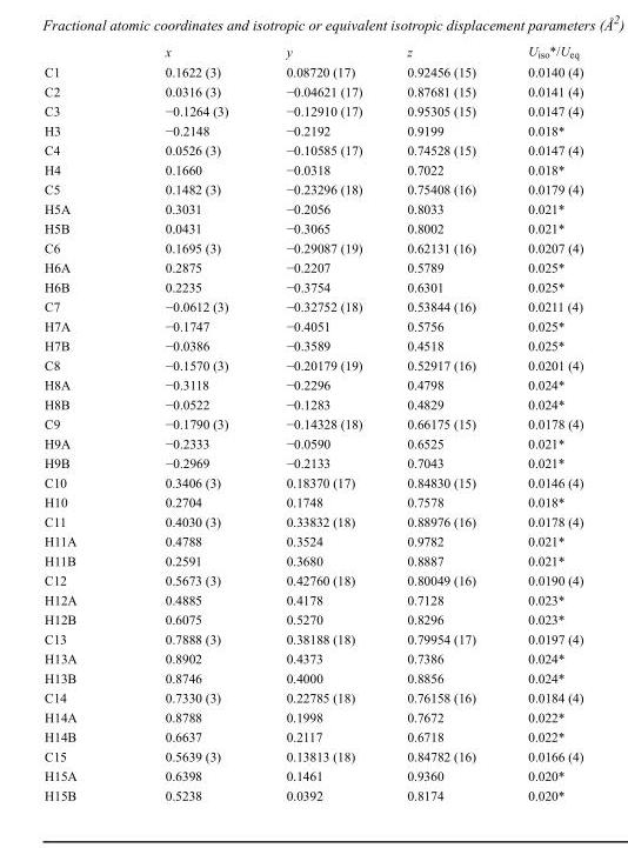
<table><thead><tr><td></td><td>x</td><td>y</td><td>z</td><td>U<sub>iso</sub>*/U<sub>eq</sub></td></tr></thead><tbody><tr><td>C1</td><td>0.1622 (3)</td><td>0.08720 (17)</td><td>0.92456 (15)</td><td>0.0140 (4)</td></tr><tr><td>C2</td><td>0.0316 (3)</td><td>−0.04621 (17)</td><td>0.87681 (15)</td><td>0.0141 (4)</td></tr><tr><td>C3</td><td>−0.1264 (3)</td><td>−0.12910 (17)</td><td>0.95305 (15)</td><td>0.0147 (4)</td></tr><tr><td>H3</td><td>−0.2148</td><td>−0.2192</td><td>0.9199</td><td>0.018*</td></tr><tr><td>C4</td><td>0.0526 (3)</td><td>−0.10585 (17)</td><td>0.74528 (15)</td><td>0.0147 (4)</td></tr><tr><td>H4</td><td>0.1660</td><td>−0.0318</td><td>0.7022</td><td>0.018*</td></tr><tr><td>C5</td><td>0.1482 (3)</td><td>−0.23296 (18)</td><td>0.75408 (16)</td><td>0.0179 (4)</td></tr><tr><td>H5A</td><td>0.3031</td><td>−0.2056</td><td>0.8033</td><td>0.021*</td></tr><tr><td>H5B</td><td>0.0431</td><td>−0.3065</td><td>0.8002</td><td>0.021*</td></tr><tr><td>C6</td><td>0.1695 (3)</td><td>−0.29087 (19)</td><td>0.62131 (16)</td><td>0.0207 (4)</td></tr><tr><td>H6A</td><td>0.2875</td><td>−0.2207</td><td>0.5789</td><td>0.025*</td></tr><tr><td>H6B</td><td>0.2235</td><td>−0.3754</td><td>0.6301</td><td>0.025*</td></tr><tr><td>C7</td><td>−0.0612 (3)</td><td>−0.32752 (18)</td><td>0.53844 (16)</td><td>0.0211 (4)</td></tr><tr><td>H7A</td><td>−0.1747</td><td>−0.4051</td><td>0.5756</td><td>0.025*</td></tr><tr><td>H7B</td><td>−0.0386</td><td>−0.3589</td><td>0.4518</td><td>0.025*</td></tr><tr><td>C8</td><td>−0.1570 (3)</td><td>−0.20179 (19)</td><td>0.52917 (16)</td><td>0.0201 (4)</td></tr><tr><td>H8A</td><td>−0.3118</td><td>−0.2296</td><td>0.4798</td><td>0.024*</td></tr><tr><td>H8B</td><td>−0.0522</td><td>−0.1283</td><td>0.4829</td><td>0.024*</td></tr><tr><td>C9</td><td>−0.1790 (3)</td><td>−0.14328 (18)</td><td>0.66175 (15)</td><td>0.0178 (4)</td></tr><tr><td>H9A</td><td>−0.2333</td><td>−0.0590</td><td>0.6525</td><td>0.021*</td></tr><tr><td>H9B</td><td>−0.2969</td><td>−0.2133</td><td>0.7043</td><td>0.021*</td></tr><tr><td>C10</td><td>0.3406 (3)</td><td>0.18370 (17)</td><td>0.84830 (15)</td><td>0.0146 (4)</td></tr><tr><td>H10</td><td>0.2704</td><td>0.1748</td><td>0.7578</td><td>0.018*</td></tr><tr><td>C11</td><td>0.4030 (3)</td><td>0.33832 (18)</td><td>0.88976 (16)</td><td>0.0178 (4)</td></tr><tr><td>H11A</td><td>0.4788</td><td>0.3524</td><td>0.9782</td><td>0.021*</td></tr><tr><td>H11B</td><td>0.2591</td><td>0.3680</td><td>0.8887</td><td>0.021*</td></tr><tr><td>C12</td><td>0.5673 (3)</td><td>0.42760 (18)</td><td>0.80049 (16)</td><td>0.0190 (4)</td></tr><tr><td>H12A</td><td>0.4885</td><td>0.4178</td><td>0.7128</td><td>0.023*</td></tr><tr><td>H12B</td><td>0.6075</td><td>0.5270</td><td>0.8296</td><td>0.023*</td></tr><tr><td>C13</td><td>0.7888 (3)</td><td>0.38188 (18)</td><td>0.79954 (17)</td><td>0.0197 (4)</td></tr><tr><td>H13A</td><td>0.8902</td><td>0.4373</td><td>0.7386</td><td>0.024*</td></tr><tr><td>H13B</td><td>0.8746</td><td>0.4000</td><td>0.8856</td><td>0.024*</td></tr><tr><td>C14</td><td>0.7330 (3)</td><td>0.22785 (18)</td><td>0.76158 (16)</td><td>0.0184 (4)</td></tr><tr><td>H14A</td><td>0.8788</td><td>0.1998</td><td>0.7672</td><td>0.022*</td></tr><tr><td>H14B</td><td>0.6637</td><td>0.2117</td><td>0.6718</td><td>0.022*</td></tr><tr><td>C15</td><td>0.5639 (3)</td><td>0.13813 (18)</td><td>0.84782 (16)</td><td>0.0166 (4)</td></tr><tr><td>H15A</td><td>0.6398</td><td>0.1461</td><td>0.9360</td><td>0.020*</td></tr><tr><td>H15B</td><td>0.5238</td><td>0.0392</td><td>0.8174</td><td>0.020*</td></tr></tbody></table>